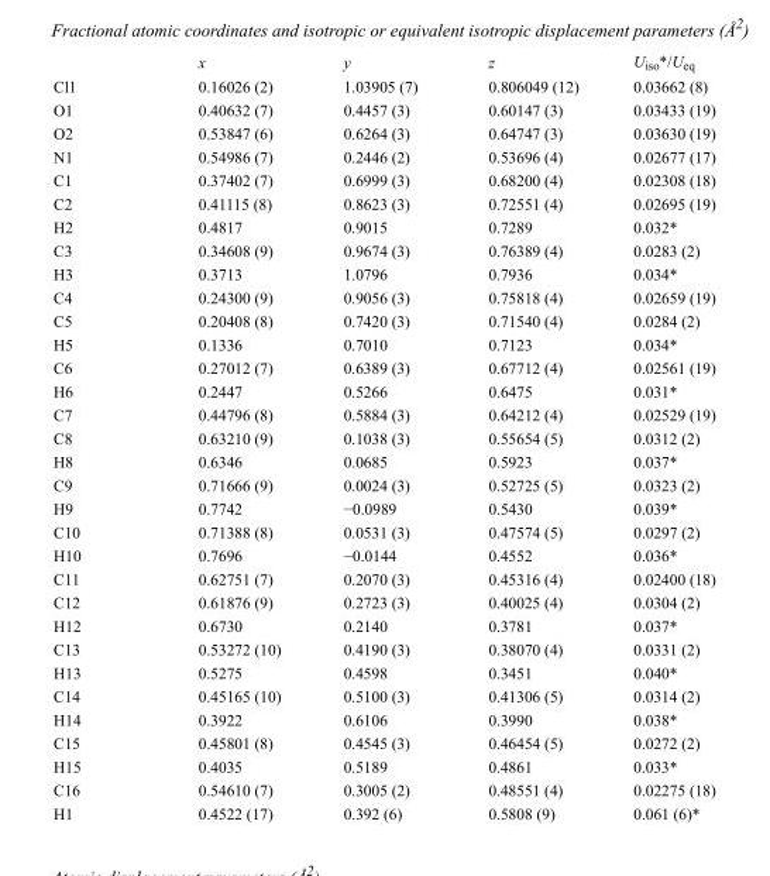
<table><thead><tr><td></td><td>x</td><td>y</td><td>z</td><td>U<sub>iso</sub>*/U<sub>eq</sub></td></tr></thead><tbody><tr><td>Cl1</td><td>0.16026 (2)</td><td>1.03905 (7)</td><td>0.806049 (12)</td><td>0.03662 (8)</td></tr><tr><td>O1</td><td>0.40632 (7)</td><td>0.4457 (3)</td><td>0.60147 (3)</td><td>0.03433 (19)</td></tr><tr><td>O2</td><td>0.53847 (6)</td><td>0.6264 (3)</td><td>0.64747 (3)</td><td>0.03630 (19)</td></tr><tr><td>N1</td><td>0.54986 (7)</td><td>0.2446 (2)</td><td>0.53696 (4)</td><td>0.02677 (17)</td></tr><tr><td>C1</td><td>0.37402 (7)</td><td>0.6999 (3)</td><td>0.68200 (4)</td><td>0.02308 (18)</td></tr><tr><td>C2</td><td>0.41115 (8)</td><td>0.8623 (3)</td><td>0.72551 (4)</td><td>0.02695 (19)</td></tr><tr><td>H2</td><td>0.4817</td><td>0.9015</td><td>0.7289</td><td>0.032*</td></tr><tr><td>C3</td><td>0.34608 (9)</td><td>0.9674 (3)</td><td>0.76389 (4)</td><td>0.0283 (2)</td></tr><tr><td>H3</td><td>0.3713</td><td>1.0796</td><td>0.7936</td><td>0.034*</td></tr><tr><td>C4</td><td>0.24300 (9)</td><td>0.9056 (3)</td><td>0.75818 (4)</td><td>0.02659 (19)</td></tr><tr><td>C5</td><td>0.20408 (8)</td><td>0.7420 (3)</td><td>0.71540 (4)</td><td>0.0284 (2)</td></tr><tr><td>H5</td><td>0.1336</td><td>0.7010</td><td>0.7123</td><td>0.034*</td></tr><tr><td>C6</td><td>0.27012 (7)</td><td>0.6389 (3)</td><td>0.67712 (4)</td><td>0.02561 (19)</td></tr><tr><td>H6</td><td>0.2447</td><td>0.5266</td><td>0.6475</td><td>0.031*</td></tr><tr><td>C7</td><td>0.44796 (8)</td><td>0.5884 (3)</td><td>0.64212 (4)</td><td>0.02529 (19)</td></tr><tr><td>C8</td><td>0.63210 (9)</td><td>0.1038 (3)</td><td>0.55654 (5)</td><td>0.0312 (2)</td></tr><tr><td>H8</td><td>0.6346</td><td>0.0685</td><td>0.5923</td><td>0.037*</td></tr><tr><td>C9</td><td>0.71666 (9)</td><td>0.0024 (3)</td><td>0.52725 (5)</td><td>0.0323 (2)</td></tr><tr><td>H9</td><td>0.7742</td><td>−0.0989</td><td>0.5430</td><td>0.039*</td></tr><tr><td>C10</td><td>0.71388 (8)</td><td>0.0531 (3)</td><td>0.47574 (5)</td><td>0.0297 (2)</td></tr><tr><td>H10</td><td>0.7696</td><td>−0.0144</td><td>0.4552</td><td>0.036*</td></tr><tr><td>C11</td><td>0.62751 (7)</td><td>0.2070 (3)</td><td>0.45316 (4)</td><td>0.02400 (18)</td></tr><tr><td>C12</td><td>0.61876 (9)</td><td>0.2723 (3)</td><td>0.40025 (4)</td><td>0.0304 (2)</td></tr><tr><td>H12</td><td>0.6730</td><td>0.2140</td><td>0.3781</td><td>0.037*</td></tr><tr><td>C13</td><td>0.53272 (10)</td><td>0.4190 (3)</td><td>0.38070 (4)</td><td>0.0331 (2)</td></tr><tr><td>H13</td><td>0.5275</td><td>0.4598</td><td>0.3451</td><td>0.040*</td></tr><tr><td>C14</td><td>0.45165 (10)</td><td>0.5100 (3)</td><td>0.41306 (5)</td><td>0.0314 (2)</td></tr><tr><td>H14</td><td>0.3922</td><td>0.6106</td><td>0.3990</td><td>0.038*</td></tr><tr><td>C15</td><td>0.45801 (8)</td><td>0.4545 (3)</td><td>0.46454 (5)</td><td>0.0272 (2)</td></tr><tr><td>H15</td><td>0.4035</td><td>0.5189</td><td>0.4861</td><td>0.033*</td></tr><tr><td>C16</td><td>0.54610 (7)</td><td>0.3005 (2)</td><td>0.48551 (4)</td><td>0.02275 (18)</td></tr><tr><td>H1</td><td>0.4522 (17)</td><td>0.392 (6)</td><td>0.5808 (9)</td><td>0.061 (6)*</td></tr></tbody></table>